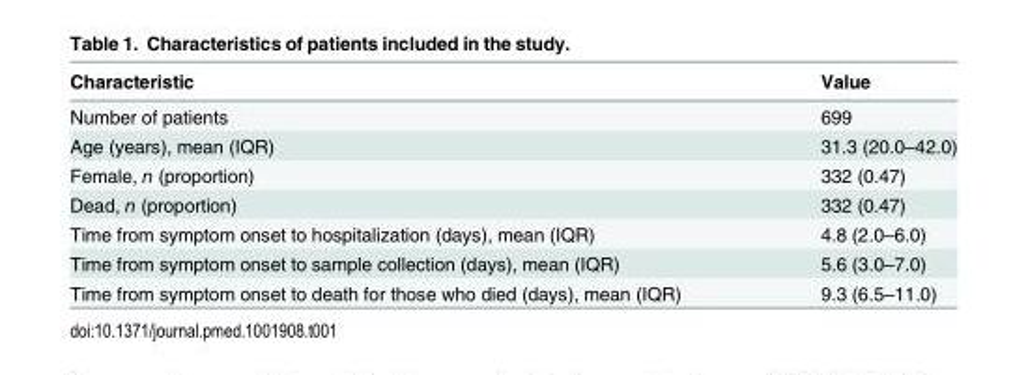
<table><thead><tr><td>Characteristic</td><td>Value</td></tr></thead><tbody><tr><td>Number of patients</td><td>699</td></tr><tr><td>Age (years), mean (IQR)</td><td>31.3 (20.0–42.0)</td></tr><tr><td>Female, n (proportion)</td><td>332 (0.47)</td></tr><tr><td>Dead, n (proportion)</td><td>332 (0.47)</td></tr><tr><td>Time from symptom onset to hospitalization (days), mean (IQR)</td><td>4.8 (2.0–6.0)</td></tr><tr><td>Time from symptom onset to sample collection (days), mean (IQR)</td><td>5.6 (3.0–7.0)</td></tr><tr><td>Time from symptom onset to death for those who died (days), mean (IQR)</td><td>9.3 (6.5–11.0)</td></tr></tbody></table>